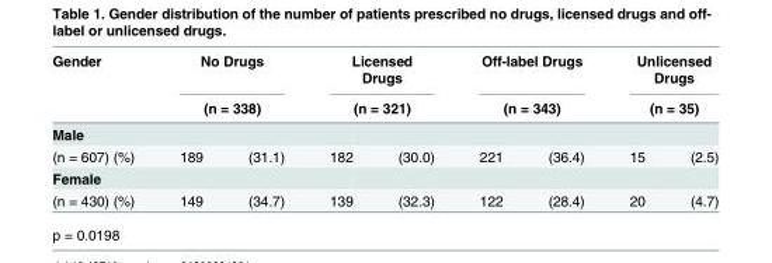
<table><thead><tr><td rowspan="3">Gender Male</td><td rowspan="2" colspan="2">No Drugs (n = 338)</td><td rowspan="2" colspan="2">Licensed Drugs (n = 321)</td><td rowspan="2" colspan="2">Off-label Drugs (n = 343)</td><td rowspan="2" colspan="2">Unlicensed Drugs (n = 35)</td></tr><tr></tr><tr><td></td><td></td><td></td><td></td><td></td><td></td><td></td><td></td></tr></thead><tbody><tr><td>(n = 607) (%)</td><td>189</td><td>(31.1)</td><td>182</td><td>(30.0)</td><td>221</td><td>(36.4)</td><td>15</td><td>(2.5)</td></tr><tr><td colspan="9">Female</td></tr><tr><td>(n = 430) (%)</td><td>149</td><td>(34.7)</td><td>139</td><td>(32.3)</td><td>122</td><td>(28.4)</td><td>20</td><td>(4.7)</td></tr></tbody></table>